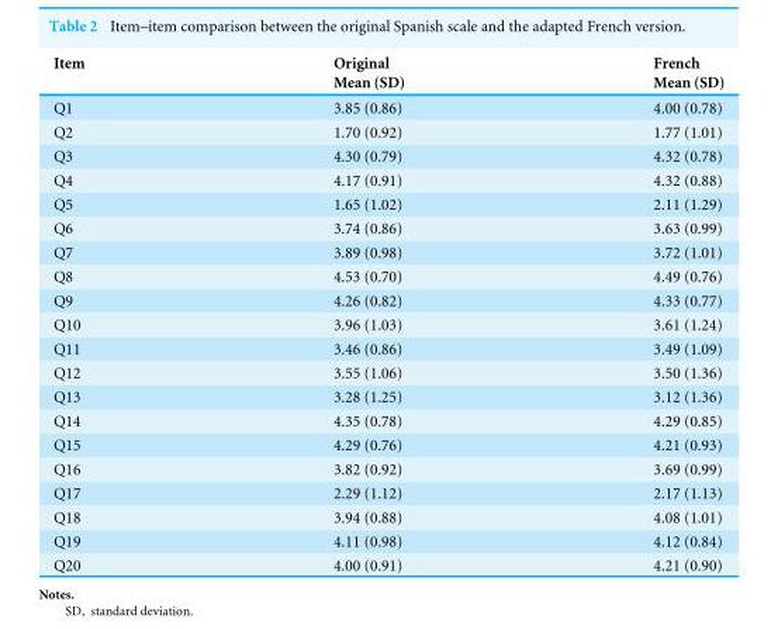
<table><thead><tr><td>Item</td><td>Original Mean (SD)</td><td>French Mean (SD)</td></tr></thead><tbody><tr><td>Q1</td><td>3.85 (0.86)</td><td>4.00 (0.78)</td></tr><tr><td>Q2</td><td>1.70 (0.92)</td><td>1.77 (1.01)</td></tr><tr><td>Q3</td><td>4.30 (0.79)</td><td>4.32 (0.78)</td></tr><tr><td>Q4</td><td>4.17 (0.91)</td><td>4.32 (0.88)</td></tr><tr><td>Q5</td><td>1.65 (1.02)</td><td>2.11 (1.29)</td></tr><tr><td>Q6</td><td>3.74 (0.86)</td><td>3.63 (0.99)</td></tr><tr><td>Q7</td><td>3.89 (0.98)</td><td>3.72 (1.01)</td></tr><tr><td>Q8</td><td>4.53 (0.70)</td><td>4.49 (0.76)</td></tr><tr><td>Q9</td><td>4.26 (0.82)</td><td>4.33 (0.77)</td></tr><tr><td>Q10</td><td>3.96 (1.03)</td><td>3.61 (1.24)</td></tr><tr><td>Q11</td><td>3.46 (0.86)</td><td>3.49 (1.09)</td></tr><tr><td>Q12</td><td>3.55 (1.06)</td><td>3.50 (1.36)</td></tr><tr><td>Q13</td><td>3.28 (1.25)</td><td>3.12 (1.36)</td></tr><tr><td>Q14</td><td>4.35 (0.78)</td><td>4.29 (0.85)</td></tr><tr><td>Q15</td><td>4.29 (0.76)</td><td>4.21 (0.93)</td></tr><tr><td>Q16</td><td>3.82 (0.92)</td><td>3.69 (0.99)</td></tr><tr><td>Q17</td><td>2.29 (1.12)</td><td>2.17 (1.13)</td></tr><tr><td>Q18</td><td>3.94 (0.88)</td><td>4.08 (1.01)</td></tr><tr><td>Q19</td><td>4.11 (0.98)</td><td>4.12 (0.84)</td></tr><tr><td>Q20</td><td>4.00 (0.91)</td><td>4.21 (0.90)</td></tr></tbody></table>